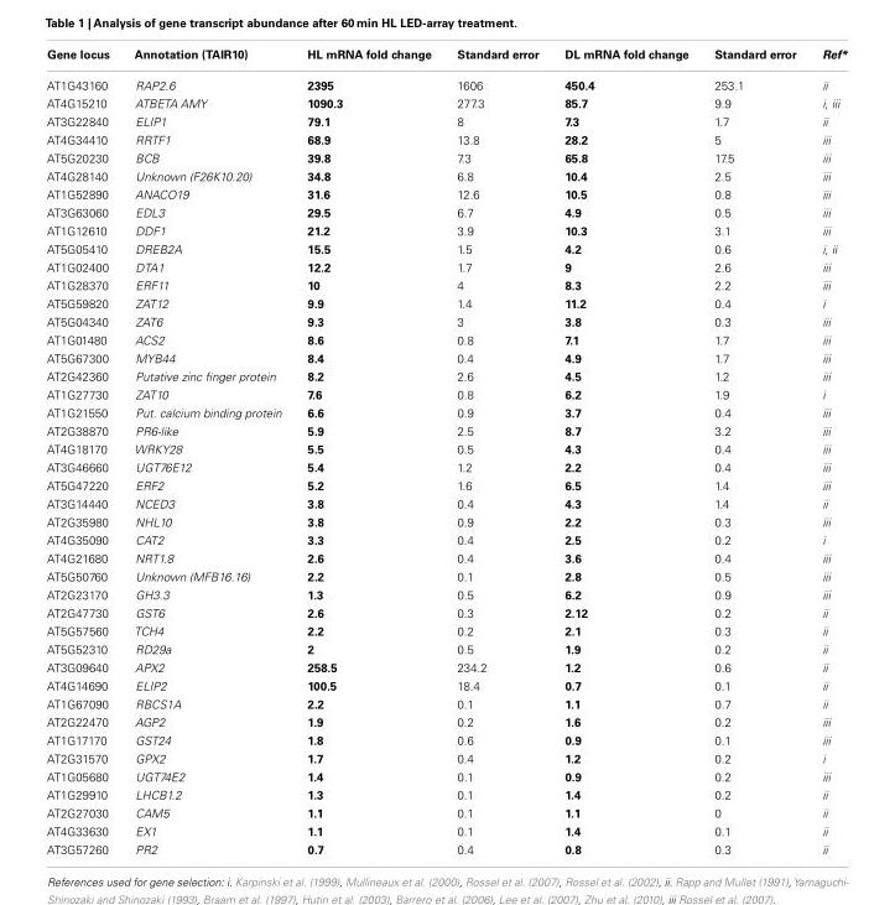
<table><thead><tr><td>Gene locus</td><td>Annotation (TAIR10)</td><td>HL mRNA fold change</td><td>Standard error</td><td>DL mRNA fold change</td><td>Standard error</td><td>Ref*</td></tr></thead><tbody><tr><td>AT1G43160</td><td>RAP2.6</td><td>2395</td><td>1606</td><td>450.4</td><td>253.1</td><td>ii</td></tr><tr><td>AT4G15210</td><td>ATBETA AMY</td><td>1090.3</td><td>277.3</td><td>85.7</td><td>9.9</td><td>i, iii</td></tr><tr><td>AT3G22840</td><td>ELIP1</td><td>79.1</td><td>8</td><td>7.3</td><td>1.7</td><td>ii</td></tr><tr><td>AT4G34410</td><td>RRTF1</td><td>68.9</td><td>13.8</td><td>28.2</td><td>5</td><td>iii</td></tr><tr><td>AT5G20230</td><td>BCB</td><td>39.8</td><td>7.3</td><td>65.8</td><td>17.5</td><td>iii</td></tr><tr><td>AT4G28140</td><td>Unknown (F26K10.20)</td><td>34.8</td><td>6.8</td><td>10.4</td><td>2.5</td><td>iii</td></tr><tr><td>AT1G52890</td><td>ANACO19</td><td>31.6</td><td>12.6</td><td>10.5</td><td>0.8</td><td>iii</td></tr><tr><td>AT3G63060</td><td>EDL3</td><td>29.5</td><td>6.7</td><td>4.9</td><td>0.5</td><td>iii</td></tr><tr><td>AT1G12610</td><td>DDF1</td><td>21.2</td><td>3.9</td><td>10.3</td><td>3.1</td><td>iii</td></tr><tr><td>AT5G05410</td><td>DREB2A</td><td>15.5</td><td>1.5</td><td>4.2</td><td>0.6</td><td>i, ii</td></tr><tr><td>AT1G02400</td><td>DTA1</td><td>12.2</td><td>1.7</td><td>9</td><td>2.6</td><td>iii</td></tr><tr><td>AT1G28370</td><td>ERF11</td><td>10</td><td>4</td><td>8.3</td><td>2.2</td><td>iii</td></tr><tr><td>AT5G59820</td><td>ZAT12</td><td>9.9</td><td>1.4</td><td>11.2</td><td>0.4</td><td>i</td></tr><tr><td>AT5G04340</td><td>ZAT6</td><td>9.3</td><td>3</td><td>3.8</td><td>0.3</td><td>iii</td></tr><tr><td>AT1G01480</td><td>ACS2</td><td>8.6</td><td>0.8</td><td>7.1</td><td>1.7</td><td>iii</td></tr><tr><td>AT5G67300</td><td>MYB44</td><td>8.4</td><td>0.4</td><td>4.9</td><td>1.7</td><td>iii</td></tr><tr><td>AT2G42360</td><td>Putative zinc finger protein</td><td>8.2</td><td>2.6</td><td>4.5</td><td>1.2</td><td>iii</td></tr><tr><td>AT1G27730</td><td>ZAT10</td><td>7.6</td><td>0.8</td><td>6.2</td><td>1.9</td><td>i</td></tr><tr><td>AT1G21550</td><td>Put. calcium binding protein</td><td>6.6</td><td>0.9</td><td>3.7</td><td>0.4</td><td>iii</td></tr><tr><td>AT2G38870</td><td>PR6-like</td><td>5.9</td><td>2.5</td><td>8.7</td><td>3.2</td><td>iii</td></tr><tr><td>AT4G18170</td><td>WRKY28</td><td>5.5</td><td>0.5</td><td>4.3</td><td>0.4</td><td>iii</td></tr><tr><td>AT3G46660</td><td>UGT76E12</td><td>5.4</td><td>1.2</td><td>2.2</td><td>0.4</td><td>iii</td></tr><tr><td>AT5G47220</td><td>ERF2</td><td>5.2</td><td>1.6</td><td>6.5</td><td>1.4</td><td>iii</td></tr><tr><td>AT3G14440</td><td>NCED3</td><td>3.8</td><td>0.4</td><td>4.3</td><td>1.4</td><td>ii</td></tr><tr><td>AT2G35980</td><td>NHL10</td><td>3.8</td><td>0.9</td><td>2.2</td><td>0.3</td><td>iii</td></tr><tr><td>AT4G35090</td><td>CAT2</td><td>3.3</td><td>0.4</td><td>2.5</td><td>0.2</td><td>i</td></tr><tr><td>AT4G21680</td><td>NRT1.8</td><td>2.6</td><td>0.4</td><td>3.6</td><td>0.4</td><td>iii</td></tr><tr><td>AT5G50760</td><td>Unknown (MFB16.16)</td><td>2.2</td><td>0.1</td><td>2.8</td><td>0.5</td><td>iii</td></tr><tr><td>AT2G23170</td><td>GH3.3</td><td>1.3</td><td>0.5</td><td>6.2</td><td>0.9</td><td>iii</td></tr><tr><td>AT2G47730</td><td>GST6</td><td>2.6</td><td>0.3</td><td>2.12</td><td>0.2</td><td>ii</td></tr><tr><td>AT5G57560</td><td>TCH4</td><td>2.2</td><td>0.2</td><td>2.1</td><td>0.3</td><td>ii</td></tr><tr><td>AT5G52310</td><td>RD29a</td><td>2</td><td>0.5</td><td>1.9</td><td>0.2</td><td>ii</td></tr><tr><td>AT3G09640</td><td>APX2</td><td>258.5</td><td>234.2</td><td>1.2</td><td>0.6</td><td>ii</td></tr><tr><td>AT4G14690</td><td>ELIP2</td><td>100.5</td><td>18.4</td><td>0.7</td><td>0.1</td><td>ii</td></tr><tr><td>AT1G67090</td><td>RBCS1A</td><td>2.2</td><td>0.1</td><td>1.1</td><td>0.7</td><td>ii</td></tr><tr><td>AT2G22470</td><td>AGP2</td><td>1.9</td><td>0.2</td><td>1.6</td><td>0.2</td><td>iii</td></tr><tr><td>AT1G17170</td><td>GST24</td><td>1.8</td><td>0.6</td><td>0.9</td><td>0.1</td><td>iii</td></tr><tr><td>AT2G31570</td><td>GPX2</td><td>1.7</td><td>0.4</td><td>1.2</td><td>0.2</td><td>i</td></tr><tr><td>AT1G05680</td><td>UGT74E2</td><td>1.4</td><td>0.1</td><td>0.9</td><td>0.2</td><td>iii</td></tr><tr><td>AT1G29910</td><td>LHCB1.2</td><td>1.3</td><td>0.1</td><td>1.4</td><td>0.2</td><td>ii</td></tr><tr><td>AT2G27030</td><td>CAM5</td><td>1.1</td><td>0.1</td><td>1.1</td><td>0</td><td>ii</td></tr><tr><td>AT4G33630</td><td>EX1</td><td>1.1</td><td>0.1</td><td>1.4</td><td>0.1</td><td>ii</td></tr><tr><td>AT3G57260</td><td>PR2</td><td>0.7</td><td>0.4</td><td>0.8</td><td>0.3</td><td>ii</td></tr></tbody></table>